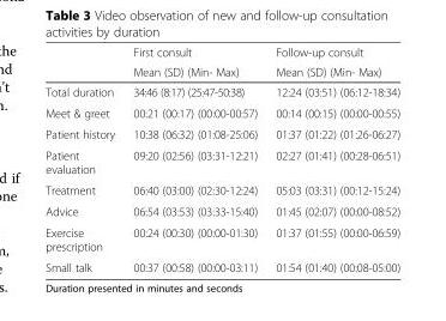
<table><thead><tr><td rowspan="2"></td><td rowspan="2">First consult Mean (SD) (Min- Max)</td><td rowspan="2">Follow-up consult Mean (SD) (Min- Max)</td></tr><tr></tr></thead><tbody><tr><td>Total duration</td><td>34:46 (8:17) (25:47-50:38)</td><td>12:24 (03:51) (06:12-18:34)</td></tr><tr><td>Meet &amp; greet</td><td>00:21 (00:17) (00:00-00:57)</td><td>00:14 (00:15) (00:00-00:55)</td></tr><tr><td>Patient history</td><td>10:38 (06:32) (01:08-25:06)</td><td>01:37 (01:22) (01:26-06:27)</td></tr><tr><td>Patient evaluation</td><td>09:20 (02:56) (03:31-12:21)</td><td>02:27 (01:41) (00:28-06:51)</td></tr><tr><td>Treatment</td><td>06:40 (03:00) (02:30-12:24)</td><td>05:03 (03:31) (00:12-15:24)</td></tr><tr><td>Advice</td><td>06:54 (03:53) (03:33-15:40)</td><td>01:45 (02:07) (00:00-08:52)</td></tr><tr><td>Exercise prescription</td><td>00:24 (00:30) (00:00-01:30)</td><td>01:37 (01:55) (00:00-06:59)</td></tr><tr><td>Small talk</td><td>00:37 (00:58) (00:00-03:11)</td><td>01:54 (01:40) (00:08-05:00)</td></tr></tbody></table>